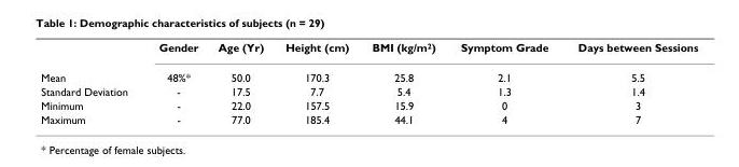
<table><thead><tr><td></td><td>Gender</td><td>Age (Yr)</td><td>Height (cm)</td><td>BMI (kg/m<sup>2</sup>)</td><td>Symptom Grade</td><td>Days between Sessions</td></tr></thead><tbody><tr><td>Mean</td><td>48%*</td><td>50.0</td><td>170.3</td><td>25.8</td><td>2.1</td><td>5.5</td></tr><tr><td>Standard Deviation</td><td>-</td><td>17.5</td><td>7.7</td><td>5.4</td><td>1.3</td><td>1.4</td></tr><tr><td>Minimum</td><td>-</td><td>22.0</td><td>157.5</td><td>15.9</td><td>0</td><td>3</td></tr><tr><td>Maximum</td><td>-</td><td>77.0</td><td>185.4</td><td>44.1</td><td>4</td><td>7</td></tr></tbody></table>